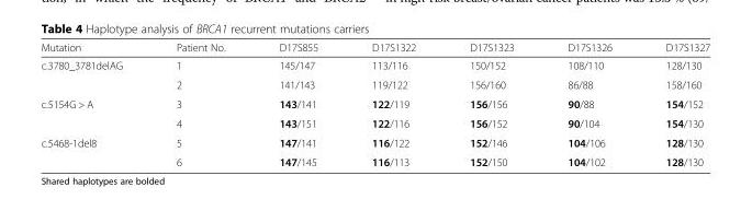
<table><thead><tr><td>Mutation</td><td>Patient No.</td><td>D17S855</td><td>D17S1322</td><td>D17S1323</td><td>D17S1326</td><td>D17S1327</td></tr></thead><tbody><tr><td rowspan="2">c.3780_3781delAG</td><td>1</td><td>145/147</td><td>113/116</td><td>150/152</td><td>108/110</td><td>128/130</td></tr><tr><td>2</td><td>141/143</td><td>119/122</td><td>156/160</td><td>86/88</td><td>158/160</td></tr><tr><td rowspan="2">c.5154G &gt; A</td><td>3</td><td>143/141</td><td>122/119</td><td>156/156</td><td>90/88</td><td>154/152</td></tr><tr><td>4</td><td>143/151</td><td>122/116</td><td>156/152</td><td>90/104</td><td>154/130</td></tr><tr><td rowspan="2">c.5468-1del8</td><td>5</td><td>147/141</td><td>116/122</td><td>152/146</td><td>104/106</td><td>128/130</td></tr><tr><td>6</td><td>147/145</td><td>116/113</td><td>152/150</td><td>104/102</td><td>128/130</td></tr></tbody></table>